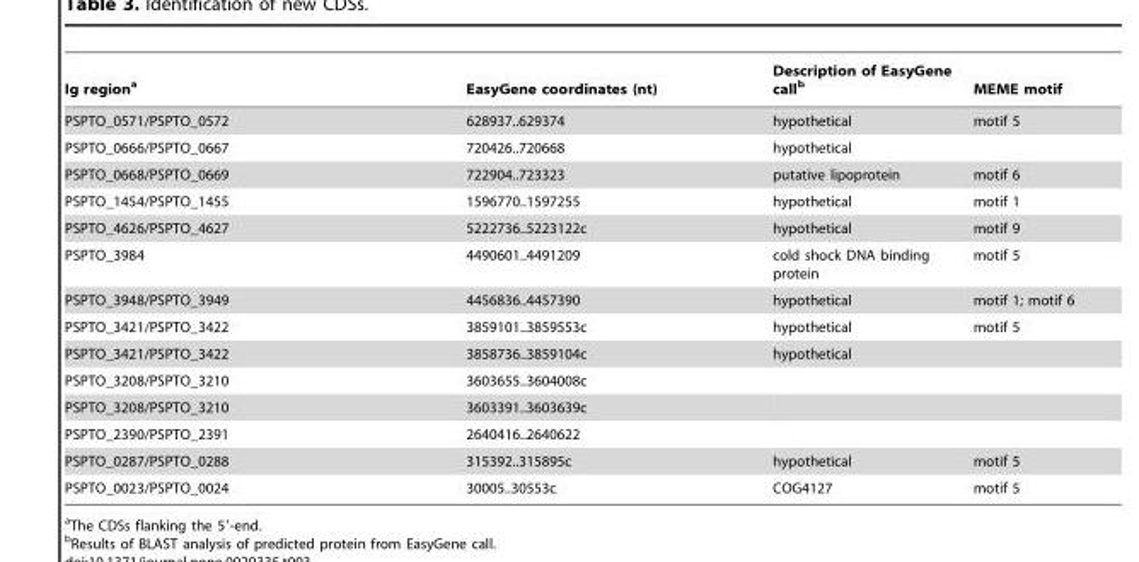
<table><thead><tr><td>Ig region<sup>a</sup></td><td>EasyGene coordinates (nt)</td><td>Description of EasyGene call<sup>b</sup></td><td>MEME motif</td></tr></thead><tbody><tr><td>PSPTO_0571/PSPTO_0572</td><td>628937..629374</td><td>hypothetical</td><td>motif 5</td></tr><tr><td>PSPTO_0666/PSPTO_0667</td><td>720426..720668</td><td>hypothetical</td><td></td></tr><tr><td>PSPTO_0668/PSPTO_0669</td><td>722904..723323</td><td>putative lipoprotein</td><td>motif 6</td></tr><tr><td>PSPTO_1454/PSPTO_1455</td><td>1596770..1597255</td><td>hypothetical</td><td>motif 1</td></tr><tr><td>PSPTO_4626/PSPTO_4627</td><td>5222736..5223122c</td><td>hypothetical</td><td>motif 9</td></tr><tr><td>PSPTO_3984</td><td>4490601..4491209</td><td>cold shock DNA binding protein</td><td>motif 5</td></tr><tr><td>PSPTO_3948/PSPTO_3949</td><td>4456836..4457390</td><td>hypothetical</td><td>motif 1; motif 6</td></tr><tr><td>PSPTO_3421/PSPTO_3422</td><td>3859101..3859553c</td><td>hypothetical</td><td>motif 5</td></tr><tr><td>PSPTO_3421/PSPTO_3422</td><td>3858736..3859104c</td><td>hypothetical</td><td></td></tr><tr><td>PSPTO_3208/PSPTO_3210</td><td>3603655..3604008c</td><td></td><td></td></tr><tr><td>PSPTO_3208/PSPTO_3210</td><td>3603391..3603639c</td><td></td><td></td></tr><tr><td>PSPTO_2390/PSPTO_2391</td><td>2640416..2640622</td><td></td><td></td></tr><tr><td>PSPTO_0287/PSPTO_0288</td><td>315392..315895c</td><td>hypothetical</td><td>motif 5</td></tr><tr><td>PSPTO_0023/PSPTO_0024</td><td>30005..30553c</td><td>COG4127</td><td>motif 5</td></tr></tbody></table>